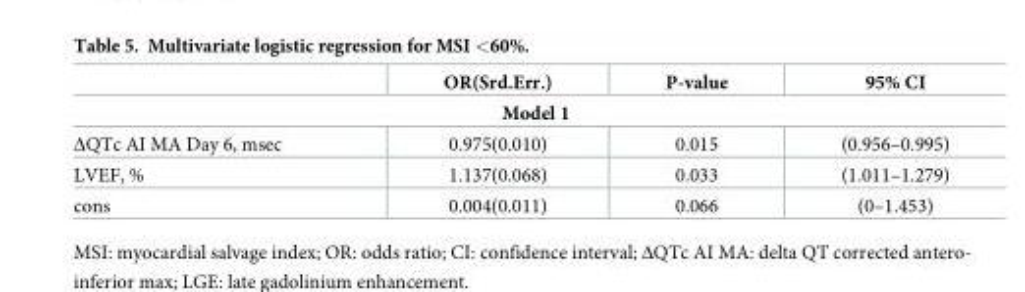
<table><thead><tr><td></td><td>OR(Srd.Err.)</td><td>P-value</td><td>95% CI</td></tr><tr><td colspan="4">Model 1</td></tr></thead><tbody><tr><td>ΔQTc AI MA Day 6, msec</td><td>0.975(0.010)</td><td>0.015</td><td>(0.956–0.995)</td></tr><tr><td>LVEF, %</td><td>1.137(0.068)</td><td>0.033</td><td>(1.011–1.279)</td></tr><tr><td>cons</td><td>0.004(0.011)</td><td>0.066</td><td>(0–1.453)</td></tr></tbody></table>